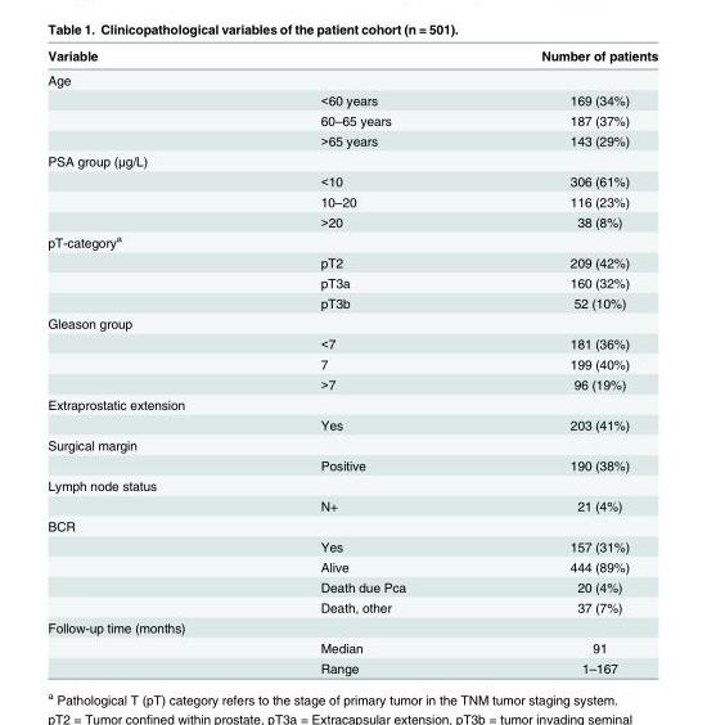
<table><thead><tr><td>Variable</td><td></td><td>Number of patients</td></tr></thead><tbody><tr><td colspan="3">Age</td></tr><tr><td></td><td>&lt;60 years</td><td>169 (34%)</td></tr><tr><td></td><td>60–65 years</td><td>187 (37%)</td></tr><tr><td></td><td>&gt;65 years</td><td>143 (29%)</td></tr><tr><td colspan="3">PSA group (μg/L)</td></tr><tr><td></td><td>&lt;10</td><td>306 (61%)</td></tr><tr><td></td><td>10–20</td><td>116 (23%)</td></tr><tr><td></td><td>&gt;20</td><td>38 (8%)</td></tr><tr><td colspan="3">pT-category<sup>a</sup></td></tr><tr><td></td><td>pT2</td><td>209 (42%)</td></tr><tr><td></td><td>pT3a</td><td>160 (32%)</td></tr><tr><td></td><td>pT3b</td><td>52 (10%)</td></tr><tr><td colspan="3">Gleason group</td></tr><tr><td></td><td>&lt;7</td><td>181 (36%)</td></tr><tr><td></td><td>7</td><td>199 (40%)</td></tr><tr><td></td><td>&gt;7</td><td>96 (19%)</td></tr><tr><td colspan="3">Extraprostatic extension</td></tr><tr><td></td><td>Yes</td><td>203 (41%)</td></tr><tr><td colspan="3">Surgical margin</td></tr><tr><td></td><td>Positive</td><td>190 (38%)</td></tr><tr><td colspan="3">Lymph node status</td></tr><tr><td></td><td>N+</td><td>21 (4%)</td></tr><tr><td colspan="3">BCR</td></tr><tr><td></td><td>Yes</td><td>157 (31%)</td></tr><tr><td></td><td>Alive</td><td>444 (89%)</td></tr><tr><td></td><td>Death due Pca</td><td>20 (4%)</td></tr><tr><td></td><td>Death, other</td><td>37 (7%)</td></tr><tr><td colspan="3">Follow-up time (months)</td></tr><tr><td></td><td>Median</td><td>91</td></tr><tr><td></td><td>Range</td><td>1–167</td></tr></tbody></table>